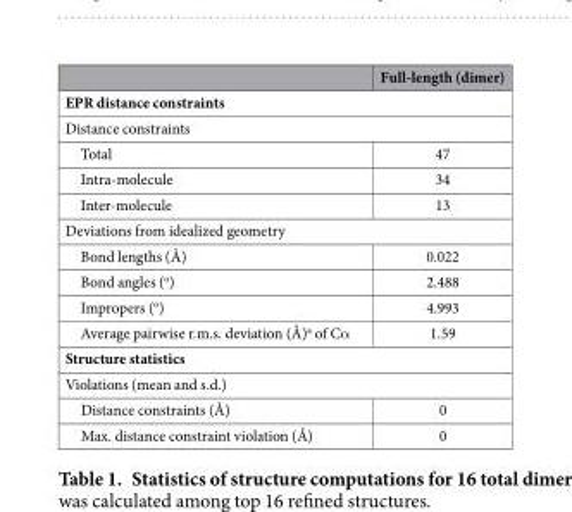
<table><thead><tr><td></td><td>Full-length (dimer)</td></tr></thead><tbody><tr><td colspan="2">EPR distance constraints</td></tr><tr><td colspan="2">Distance constraints</td></tr><tr><td>Total</td><td>47</td></tr><tr><td>Intra-molecule</td><td>34</td></tr><tr><td>Inter-molecule</td><td>13</td></tr><tr><td colspan="2">Deviations from idealized geometry</td></tr><tr><td>Bond lengths (Å)</td><td>0.022</td></tr><tr><td>Bond angles (<sup>o</sup>)</td><td>2.488</td></tr><tr><td>Impropers (<sup>o</sup>)</td><td>4.993</td></tr><tr><td>Average pairwise r.m.s. deviation (Å)<sup>a</sup> of Cα</td><td>1.59</td></tr><tr><td colspan="2">Structure statistics</td></tr><tr><td colspan="2">Violations (mean and s.d.)</td></tr><tr><td>Distance constraints (Å)</td><td>0</td></tr><tr><td>Max. distance constraint violation (Å)</td><td>0</td></tr></tbody></table>